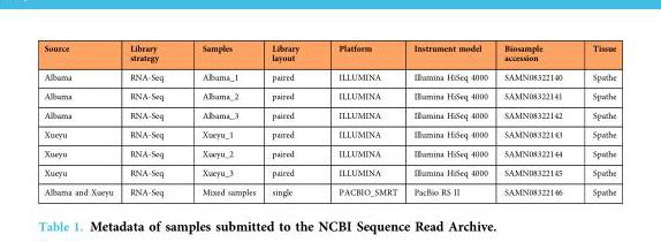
<table><thead><tr><td>Source</td><td>Library strategy</td><td>Samples</td><td>Library layout</td><td>Platform</td><td>Instrument model</td><td>Biosample accession</td><td>Tissue</td></tr></thead><tbody><tr><td>Albama</td><td>RNA-Seq</td><td>Albama_1</td><td>paired</td><td>ILLUMINA</td><td>Illumina HiSeq 4000</td><td>SAMN08322140</td><td>Spathe</td></tr><tr><td>Albama</td><td>RNA-Seq</td><td>Albama_2</td><td>paired</td><td>ILLUMINA</td><td>Illumina HiSeq 4000</td><td>SAMN08322141</td><td>Spathe</td></tr><tr><td>Albama</td><td>RNA-Seq</td><td>Albama_3</td><td>paired</td><td>ILLUMINA</td><td>Illumina HiSeq 4000</td><td>SAMN08322142</td><td>Spathe</td></tr><tr><td>Xueyu</td><td>RNA-Seq</td><td>Xueyu_1</td><td>paired</td><td>ILLUMINA</td><td>Illumina HiSeq 4000</td><td>SAMN08322143</td><td>Spathe</td></tr><tr><td>Xueyu</td><td>RNA-Seq</td><td>Xueyu_2</td><td>paired</td><td>ILLUMINA</td><td>Illumina HiSeq 4000</td><td>SAMN08322144</td><td>Spathe</td></tr><tr><td>Xueyu</td><td>RNA-Seq</td><td>Xueyu_3</td><td>paired</td><td>ILLUMINA</td><td>Illumina HiSeq 4000</td><td>SAMN08322145</td><td>Spathe</td></tr><tr><td>Albama and Xueyu</td><td>RNA-Seq</td><td>Mixed samples</td><td>single</td><td>PACBIO_SMRT</td><td>PacBio RS II</td><td>SAMN08322146</td><td>Spathe</td></tr></tbody></table>